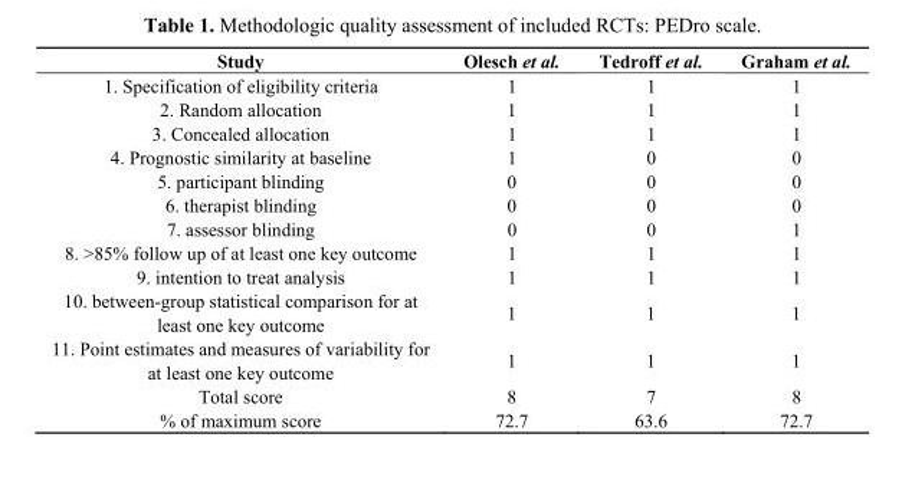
<table><thead><tr><td>Study</td><td>Olesch et al.</td><td>Tedroff et al.</td><td>Graham et al.</td></tr></thead><tbody><tr><td>1. Specification of eligibility criteria</td><td>1</td><td>1</td><td>1</td></tr><tr><td>2. Random allocation</td><td>1</td><td>1</td><td>1</td></tr><tr><td>3. Concealed allocation</td><td>1</td><td>1</td><td>1</td></tr><tr><td>4. Prognostic similarity at baseline</td><td>1</td><td>0</td><td>0</td></tr><tr><td>5. participant blinding</td><td>0</td><td>0</td><td>0</td></tr><tr><td>6. therapist blinding</td><td>0</td><td>0</td><td>0</td></tr><tr><td>7. assessor blinding</td><td>0</td><td>0</td><td>1</td></tr><tr><td>8. &gt;85% follow up of at least one key outcome</td><td>1</td><td>1</td><td>1</td></tr><tr><td>9. intention to treat analysis</td><td>1</td><td>1</td><td>1</td></tr><tr><td>10. between-group statistical comparison for at least one key outcome</td><td>1</td><td>1</td><td>1</td></tr><tr><td>11. Point estimates and measures of variability for at least one key outcome</td><td>1</td><td>1</td><td>1</td></tr><tr><td>Total score</td><td>8</td><td>7</td><td>8</td></tr><tr><td>% of maximum score</td><td>72.7</td><td>63.6</td><td>72.7</td></tr></tbody></table>